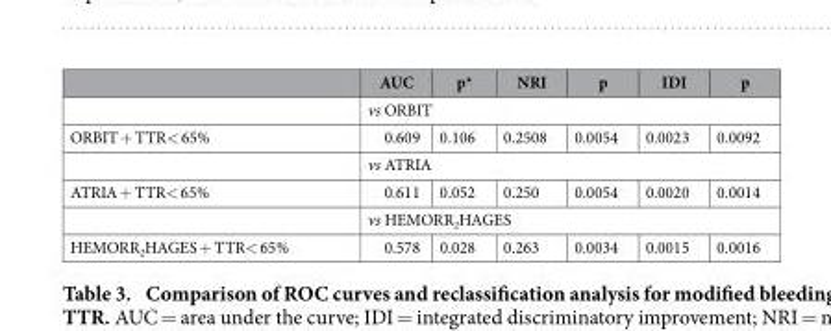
<table><thead><tr><td></td><td>AUC</td><td>p*</td><td>NRI</td><td>p</td><td>IDI</td><td>p</td></tr></thead><tbody><tr><td></td><td colspan="6">vs ORBIT</td></tr><tr><td rowspan="2">ORBIT + TTR&lt; 65%</td><td>0.609</td><td>0.106</td><td>0.2508</td><td>0.0054</td><td>0.0023</td><td>0.0092</td></tr><tr><td colspan="6">vs ATRIA</td></tr><tr><td rowspan="2">ATRIA + TTR&lt; 65%</td><td>0.611</td><td>0.052</td><td>0.250</td><td>0.0054</td><td>0.0020</td><td>0.0014</td></tr><tr><td colspan="6">vs HEMORR<sub>2</sub>HAGES</td></tr><tr><td>HEMORR<sub>2</sub>HAGES + TTR&lt; 65%</td><td>0.578</td><td>0.028</td><td>0.263</td><td>0.0034</td><td>0.0015</td><td>0.0016</td></tr></tbody></table>